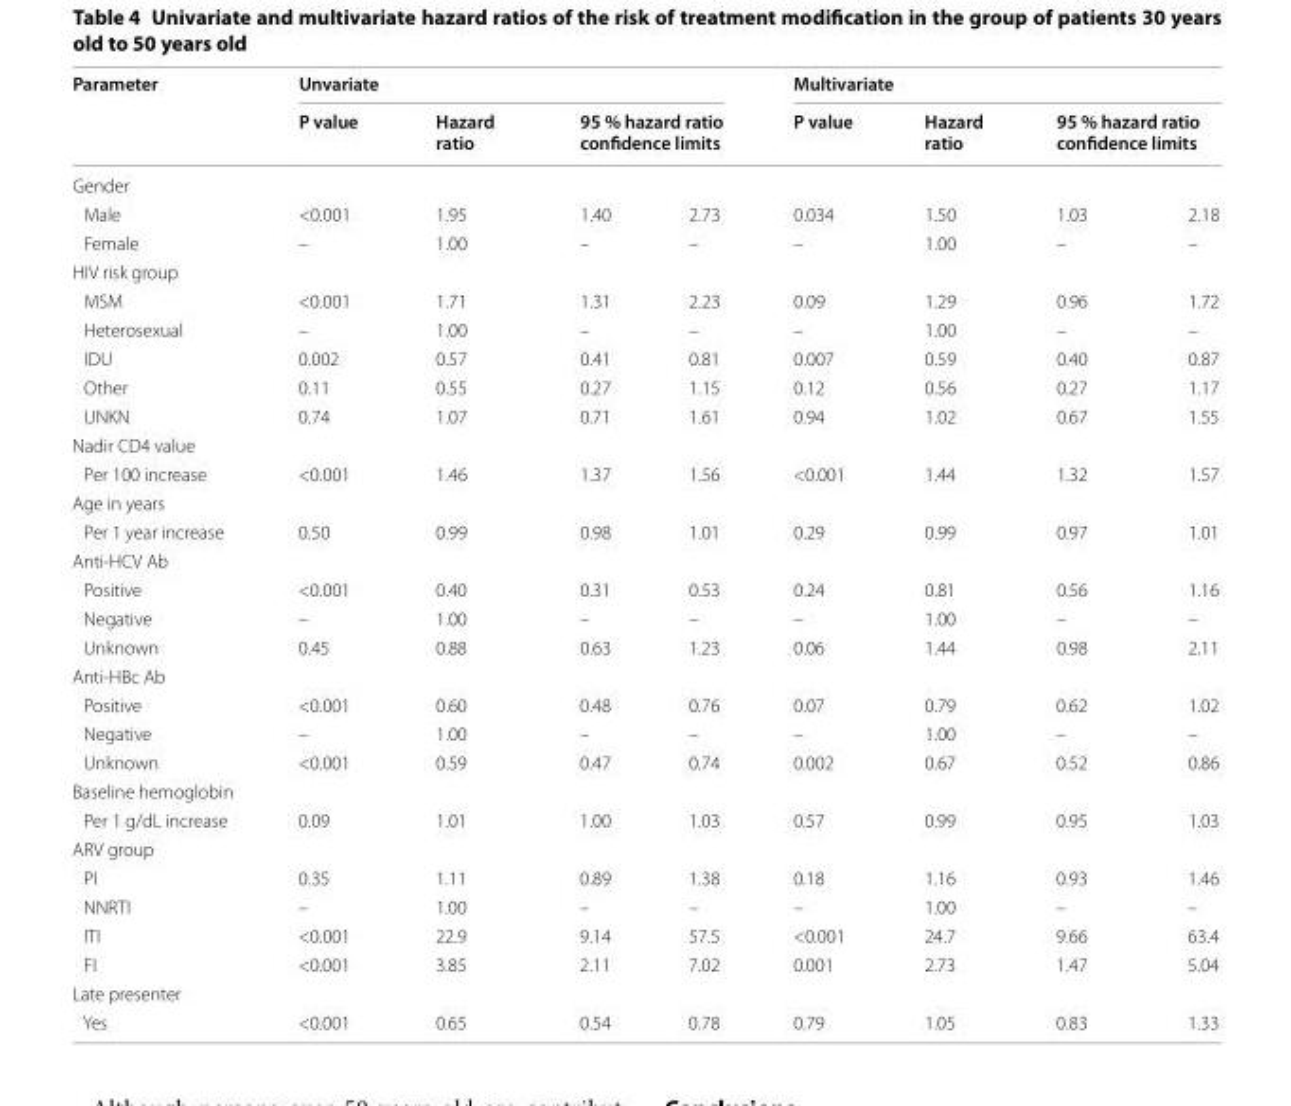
<table><thead><tr><td rowspan="2">Parameter</td><td colspan="4">Unvariate</td><td colspan="4">Multivariate</td></tr><tr><td>P value</td><td>Hazard ratio</td><td colspan="2">95 % hazard ratio confidence limits</td><td>P value</td><td>Hazard ratio</td><td colspan="2">95 % hazard ratio confidence limits</td></tr><tr><td colspan="9">Gender</td></tr><tr><td>Male</td><td>&lt;0.001</td><td>1.95</td><td>1.40</td><td>2.73</td><td>0.034</td><td>1.50</td><td>1.03</td><td>2.18</td></tr></thead><tbody><tr><td>Female</td><td>–</td><td>1.00</td><td>–</td><td>–</td><td>–</td><td>1.00</td><td>–</td><td>–</td></tr><tr><td colspan="9">HIV risk group</td></tr><tr><td>MSM</td><td>&lt;0.001</td><td>1.71</td><td>1.31</td><td>2.23</td><td>0.09</td><td>1.29</td><td>0.96</td><td>1.72</td></tr><tr><td>Heterosexual</td><td>–</td><td>1.00</td><td>–</td><td>–</td><td>–</td><td>1.00</td><td>–</td><td>–</td></tr><tr><td>IDU</td><td>0.002</td><td>0.57</td><td>0.41</td><td>0.81</td><td>0.007</td><td>0.59</td><td>0.40</td><td>0.87</td></tr><tr><td>Other</td><td>0.11</td><td>0.55</td><td>0.27</td><td>1.15</td><td>0.12</td><td>0.56</td><td>0.27</td><td>1.17</td></tr><tr><td>UNKN</td><td>0.74</td><td>1.07</td><td>0.71</td><td>1.61</td><td>0.94</td><td>1.02</td><td>0.67</td><td>1.55</td></tr><tr><td colspan="9">Nadir CD4 value</td></tr><tr><td>Per 100 increase</td><td>&lt;0.001</td><td>1.46</td><td>1.37</td><td>1.56</td><td>&lt;0.001</td><td>1.44</td><td>1.32</td><td>1.57</td></tr><tr><td colspan="9">Age in years</td></tr><tr><td>Per 1 year increase</td><td>0.50</td><td>0.99</td><td>0.98</td><td>1.01</td><td>0.29</td><td>0.99</td><td>0.97</td><td>1.01</td></tr><tr><td colspan="9">Anti‑HCV Ab</td></tr><tr><td>Positive</td><td>&lt;0.001</td><td>0.40</td><td>0.31</td><td>0.53</td><td>0.24</td><td>0.81</td><td>0.56</td><td>1.16</td></tr><tr><td>Negative</td><td>–</td><td>1.00</td><td>–</td><td>–</td><td>–</td><td>1.00</td><td>–</td><td>–</td></tr><tr><td>Unknown</td><td>0.45</td><td>0.88</td><td>0.63</td><td>1.23</td><td>0.06</td><td>1.44</td><td>0.98</td><td>2.11</td></tr><tr><td colspan="9">Anti‑HBc Ab</td></tr><tr><td>Positive</td><td>&lt;0.001</td><td>0.60</td><td>0.48</td><td>0.76</td><td>0.07</td><td>0.79</td><td>0.62</td><td>1.02</td></tr><tr><td>Negative</td><td>–</td><td>1.00</td><td>–</td><td>–</td><td>–</td><td>1.00</td><td>–</td><td>–</td></tr><tr><td>Unknown</td><td>&lt;0.001</td><td>0.59</td><td>0.47</td><td>0.74</td><td>0.002</td><td>0.67</td><td>0.52</td><td>0.86</td></tr><tr><td colspan="9">Baseline hemoglobin</td></tr><tr><td>Per 1 g/dL increase</td><td>0.09</td><td>1.01</td><td>1.00</td><td>1.03</td><td>0.57</td><td>0.99</td><td>0.95</td><td>1.03</td></tr><tr><td colspan="9">ARV group</td></tr><tr><td>PI</td><td>0.35</td><td>1.11</td><td>0.89</td><td>1.38</td><td>0.18</td><td>1.16</td><td>0.93</td><td>1.46</td></tr><tr><td>NNRTI</td><td>–</td><td>1.00</td><td>–</td><td>–</td><td>–</td><td>1.00</td><td>–</td><td>–</td></tr><tr><td>ITI</td><td>&lt;0.001</td><td>22.9</td><td>9.14</td><td>57.5</td><td>&lt;0.001</td><td>24.7</td><td>9.66</td><td>63.4</td></tr><tr><td>FI</td><td>&lt;0.001</td><td>3.85</td><td>2.11</td><td>7.02</td><td>0.001</td><td>2.73</td><td>1.47</td><td>5.04</td></tr><tr><td colspan="9">Late presenter</td></tr><tr><td>Yes</td><td>&lt;0.001</td><td>0.65</td><td>0.54</td><td>0.78</td><td>0.79</td><td>1.05</td><td>0.83</td><td>1.33</td></tr></tbody></table>